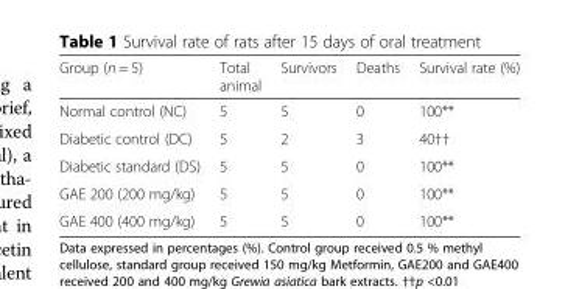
<table><thead><tr><td>Group (n = 5)</td><td>Total animal</td><td>Survivors</td><td>Deaths</td><td>Survival rate (%)</td></tr></thead><tbody><tr><td>Normal control (NC)</td><td>5</td><td>5</td><td>0</td><td>100**</td></tr><tr><td>Diabetic control (DC)</td><td>5</td><td>2</td><td>3</td><td>40††</td></tr><tr><td>Diabetic standard (DS)</td><td>5</td><td>5</td><td>0</td><td>100**</td></tr><tr><td>GAE 200 (200 mg/kg)</td><td>5</td><td>5</td><td>0</td><td>100**</td></tr><tr><td>GAE 400 (400 mg/kg)</td><td>5</td><td>5</td><td>0</td><td>100**</td></tr></tbody></table>